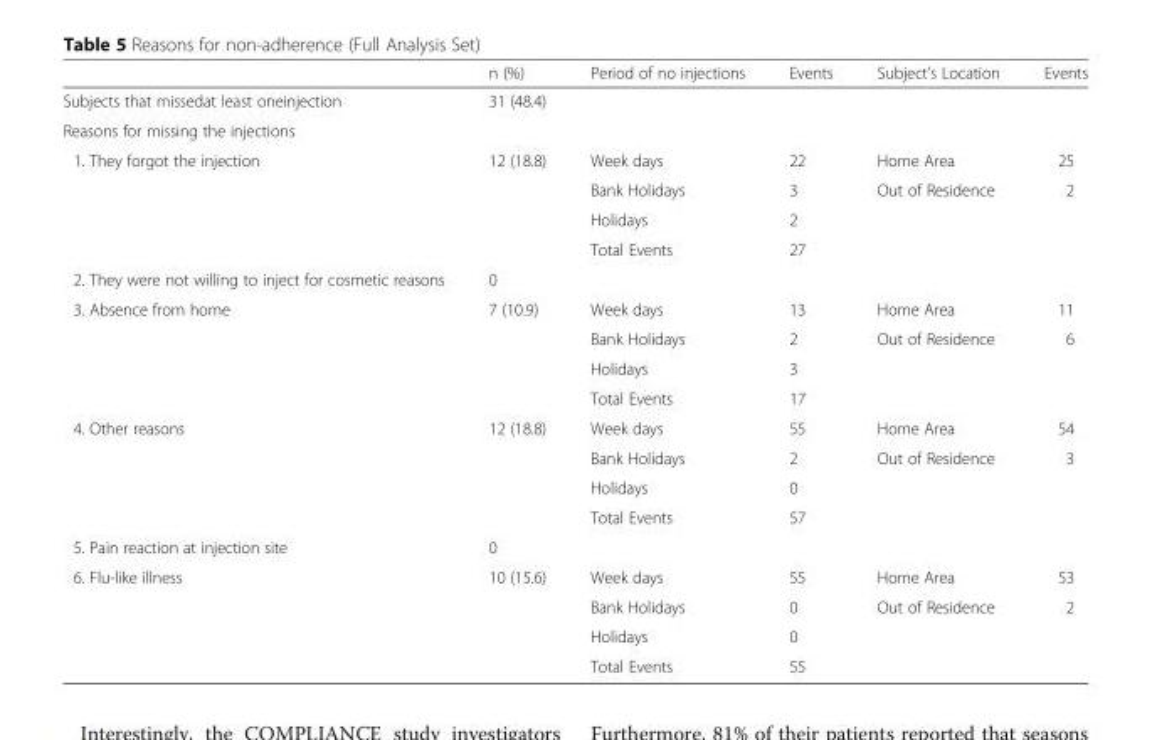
<table><thead><tr><td></td><td>n (%)</td><td>Period of no injections</td><td>Events</td><td>Subject’s Location</td><td>Events</td></tr></thead><tbody><tr><td>Subjects that missedat least oneinjection</td><td>31 (48.4)</td><td></td><td></td><td></td><td></td></tr><tr><td colspan="6">Reasons for missing the injections</td></tr><tr><td rowspan="4">1. They forgot the injection</td><td rowspan="4">12 (18.8)</td><td>Week days</td><td>22</td><td>Home Area</td><td>25</td></tr><tr><td>Bank Holidays</td><td>3</td><td>Out of Residence</td><td>2</td></tr><tr><td>Holidays</td><td>2</td><td></td><td></td></tr><tr><td>Total Events</td><td>27</td><td></td><td></td></tr><tr><td>2. They were not willing to inject for cosmetic reasons</td><td>0</td><td></td><td></td><td></td><td></td></tr><tr><td rowspan="4">3. Absence from home</td><td rowspan="4">7 (10.9)</td><td>Week days</td><td>13</td><td>Home Area</td><td>11</td></tr><tr><td>Bank Holidays</td><td>2</td><td>Out of Residence</td><td>6</td></tr><tr><td>Holidays</td><td>3</td><td></td><td></td></tr><tr><td>Total Events</td><td>17</td><td></td><td></td></tr><tr><td rowspan="4">4. Other reasons</td><td rowspan="4">12 (18.8)</td><td>Week days</td><td>55</td><td>Home Area</td><td>54</td></tr><tr><td>Bank Holidays</td><td>2</td><td>Out of Residence</td><td>3</td></tr><tr><td>Holidays</td><td>0</td><td></td><td></td></tr><tr><td>Total Events</td><td>57</td><td></td><td></td></tr><tr><td>5. Pain reaction at injection site</td><td>0</td><td></td><td></td><td></td><td></td></tr><tr><td rowspan="4">6. Flu-like illness</td><td rowspan="4">10 (15.6)</td><td>Week days</td><td>55</td><td>Home Area</td><td>53</td></tr><tr><td>Bank Holidays</td><td>0</td><td>Out of Residence</td><td>2</td></tr><tr><td>Holidays</td><td>0</td><td></td><td></td></tr><tr><td>Total Events</td><td>55</td><td></td><td></td></tr></tbody></table>